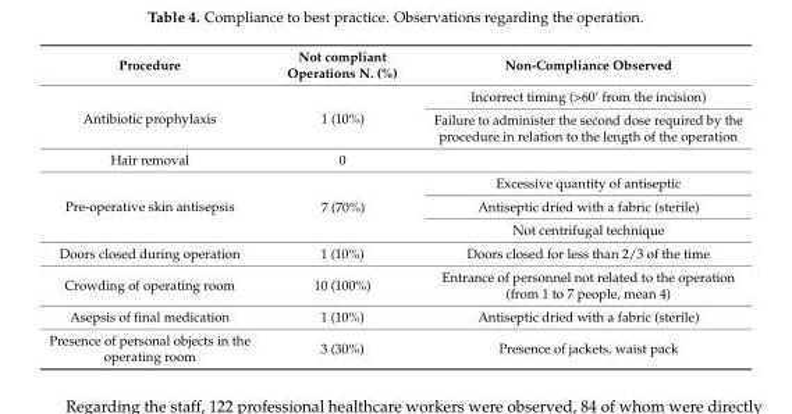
<table><thead><tr><td>Procedure</td><td>Not compliant Operations N. (%)</td><td>Non-Compliance Observed</td></tr></thead><tbody><tr><td rowspan="2">Antibiotic prophylaxis</td><td rowspan="2">1 (10%)</td><td>Incorrect timing (&gt;60’ from the incision)</td></tr><tr><td>Failure to administer the second dose required by the procedure in relation to the length of the operation</td></tr><tr><td>Hair removal</td><td>0</td><td></td></tr><tr><td rowspan="3">Pre-operative skin antisepsis</td><td rowspan="3">7 (70%)</td><td>Excessive quantity of antiseptic</td></tr><tr><td>Antiseptic dried with a fabric (sterile)</td></tr><tr><td>Not centrifugal technique</td></tr><tr><td>Doors closed during operation</td><td>1 (10%)</td><td>Doors closed for less than 2/3 of the time</td></tr><tr><td>Crowding of operating room</td><td>10 (100%)</td><td>Entrance of personnel not related to the operation (from 1 to 7 people, mean 4)</td></tr><tr><td>Asepsis of final medication</td><td>1 (10%)</td><td>Antiseptic dried with a fabric (sterile)</td></tr><tr><td>Presence of personal objects in the operating room</td><td>3 (30%)</td><td>Presence of jackets, waist pack</td></tr></tbody></table>